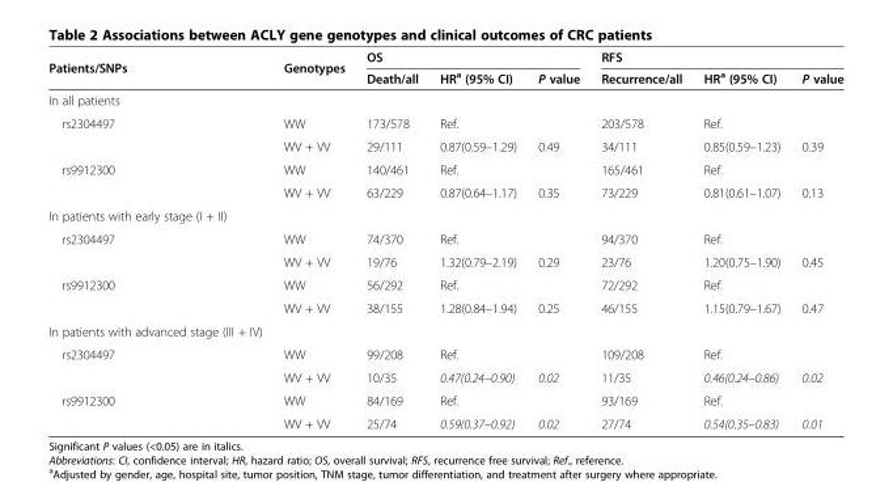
<table><thead><tr><td rowspan="2">Patients/SNPs</td><td rowspan="2">Genotypes</td><td colspan="3">OS</td><td colspan="3">RFS</td></tr><tr><td>Death/all</td><td>HR<sup>a</sup> (95% CI)</td><td>P value</td><td>Recurrence/all</td><td>HR<sup>a</sup> (95% CI)</td><td>P value</td></tr></thead><tbody><tr><td colspan="8">In all patients</td></tr><tr><td rowspan="2">rs2304497</td><td>WW</td><td>173/578</td><td>Ref.</td><td></td><td>203/578</td><td>Ref.</td><td></td></tr><tr><td>WV + VV</td><td>29/111</td><td>0.87(0.59–1.29)</td><td>0.49</td><td>34/111</td><td>0.85(0.59–1.23)</td><td>0.39</td></tr><tr><td rowspan="2">rs9912300</td><td>WW</td><td>140/461</td><td>Ref.</td><td></td><td>165/461</td><td>Ref.</td><td></td></tr><tr><td>WV + VV</td><td>63/229</td><td>0.87(0.64–1.17)</td><td>0.35</td><td>73/229</td><td>0.81(0.61–1.07)</td><td>0.13</td></tr><tr><td colspan="8">In patients with early stage (I + II)</td></tr><tr><td rowspan="2">rs2304497</td><td>WW</td><td>74/370</td><td>Ref.</td><td></td><td>94/370</td><td>Ref.</td><td></td></tr><tr><td>WV + VV</td><td>19/76</td><td>1.32(0.79–2.19)</td><td>0.29</td><td>23/76</td><td>1.20(0.75–1.90)</td><td>0.45</td></tr><tr><td rowspan="2">rs9912300</td><td>WW</td><td>56/292</td><td>Ref.</td><td></td><td>72/292</td><td>Ref.</td><td></td></tr><tr><td>WV + VV</td><td>38/155</td><td>1.28(0.84–1.94)</td><td>0.25</td><td>46/155</td><td>1.15(0.79–1.67)</td><td>0.47</td></tr><tr><td colspan="8">In patients with advanced stage (III + IV)</td></tr><tr><td rowspan="2">rs2304497</td><td>WW</td><td>99/208</td><td>Ref.</td><td></td><td>109/208</td><td>Ref.</td><td></td></tr><tr><td>WV + VV</td><td>10/35</td><td>0.47(0.24–0.90)</td><td>0.02</td><td>11/35</td><td>0.46(0.24–0.86)</td><td>0.02</td></tr><tr><td rowspan="2">rs9912300</td><td>WW</td><td>84/169</td><td>Ref.</td><td></td><td>93/169</td><td>Ref.</td><td></td></tr><tr><td>WV + VV</td><td>25/74</td><td>0.59(0.37–0.92)</td><td>0.02</td><td>27/74</td><td>0.54(0.35–0.83)</td><td>0.01</td></tr></tbody></table>